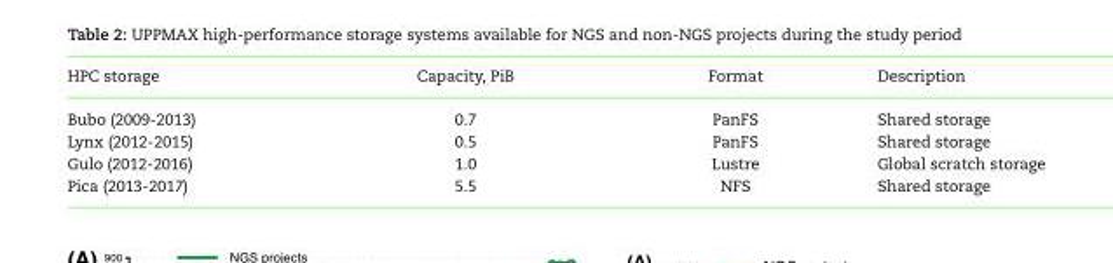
<table><thead><tr><td>HPC storage</td><td>Capacity, PiB</td><td>Format</td><td>Description</td></tr></thead><tbody><tr><td>Bubo (2009-2013)</td><td>0.7</td><td>PanFS</td><td>Shared storage</td></tr><tr><td>Lynx (2012-2015)</td><td>0.5</td><td>PanFS</td><td>Shared storage</td></tr><tr><td>Gulo (2012-2016)</td><td>1.0</td><td>Lustre</td><td>Global scratch storage</td></tr><tr><td>Pica (2013-2017)</td><td>5.5</td><td>NFS</td><td>Shared storage</td></tr></tbody></table>